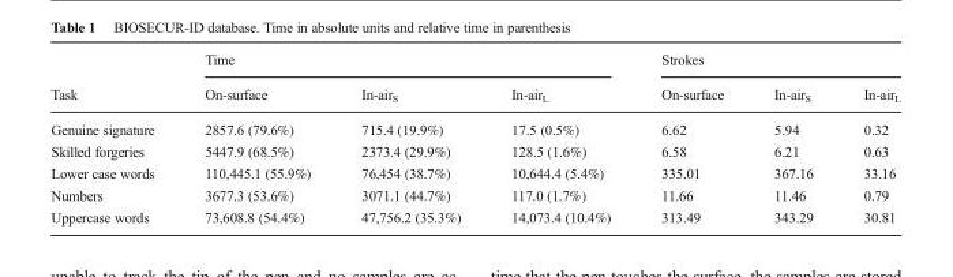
<table><thead><tr><td rowspan="2">Task</td><td colspan="3">Time</td><td colspan="3">Strokes</td></tr><tr><td>On-surface</td><td>In-air<sub>S</sub></td><td>In-air<sub>L</sub></td><td>On-surface</td><td>In-air<sub>S</sub></td><td>In-air<sub>L</sub></td></tr></thead><tbody><tr><td>Genuine signature</td><td>2857.6 (79.6%)</td><td>715.4 (19.9%)</td><td>17.5 (0.5%)</td><td>6.62</td><td>5.94</td><td>0.32</td></tr><tr><td>Skilled forgeries</td><td>5447.9 (68.5%)</td><td>2373.4 (29.9%)</td><td>128.5 (1.6%)</td><td>6.58</td><td>6.21</td><td>0.63</td></tr><tr><td>Lower case words</td><td>110,445.1 (55.9%)</td><td>76,454 (38.7%)</td><td>10,644.4 (5.4%)</td><td>335.01</td><td>367.16</td><td>33.16</td></tr><tr><td>Numbers</td><td>3677.3 (53.6%)</td><td>3071.1 (44.7%)</td><td>117.0 (1.7%)</td><td>11.66</td><td>11.46</td><td>0.79</td></tr><tr><td>Uppercase words</td><td>73,608.8 (54.4%)</td><td>47,756.2 (35.3%)</td><td>14,073.4 (10.4%)</td><td>313.49</td><td>343.29</td><td>30.81</td></tr></tbody></table>